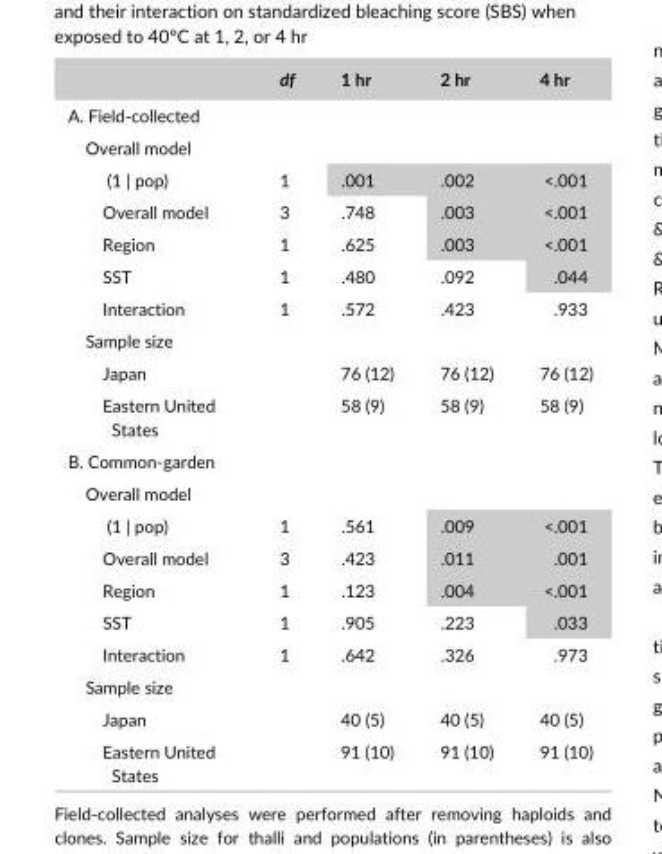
<table><thead><tr><td></td><td>df</td><td>1 hr</td><td>2 hr</td><td>4 hr</td></tr></thead><tbody><tr><td colspan="5">A. Field- collected</td></tr><tr><td colspan="5">Overall model</td></tr><tr><td>(1 | pop)</td><td>1</td><td>.001</td><td>.002</td><td>&lt;.001</td></tr><tr><td>Overall model</td><td>3</td><td>.748</td><td>.003</td><td>&lt;.001</td></tr><tr><td>Region</td><td>1</td><td>.625</td><td>.003</td><td>&lt;.001</td></tr><tr><td>SST</td><td>1</td><td>.480</td><td>.092</td><td>.044</td></tr><tr><td>Interaction</td><td>1</td><td>.572</td><td>.423</td><td>.933</td></tr><tr><td colspan="5">Sample size</td></tr><tr><td>Japan</td><td></td><td>76 (12)</td><td>76 (12)</td><td>76 (12)</td></tr><tr><td>Eastern United States</td><td></td><td>58 (9)</td><td>58 (9)</td><td>58 (9)</td></tr><tr><td colspan="5">B. Common- garden</td></tr><tr><td colspan="5">Overall model</td></tr><tr><td>(1 | pop)</td><td>1</td><td>.561</td><td>.009</td><td>&lt;.001</td></tr><tr><td>Overall model</td><td>3</td><td>.423</td><td>.011</td><td>.001</td></tr><tr><td>Region</td><td>1</td><td>.123</td><td>.004</td><td>&lt;.001</td></tr><tr><td>SST</td><td>1</td><td>.905</td><td>.223</td><td>.033</td></tr><tr><td>Interaction</td><td>1</td><td>.642</td><td>.326</td><td>.973</td></tr><tr><td colspan="5">Sample size</td></tr><tr><td>Japan</td><td></td><td>40 (5)</td><td>40 (5)</td><td>40 (5)</td></tr><tr><td>Eastern United States</td><td></td><td>91 (10)</td><td>91 (10)</td><td>91 (10)</td></tr></tbody></table>